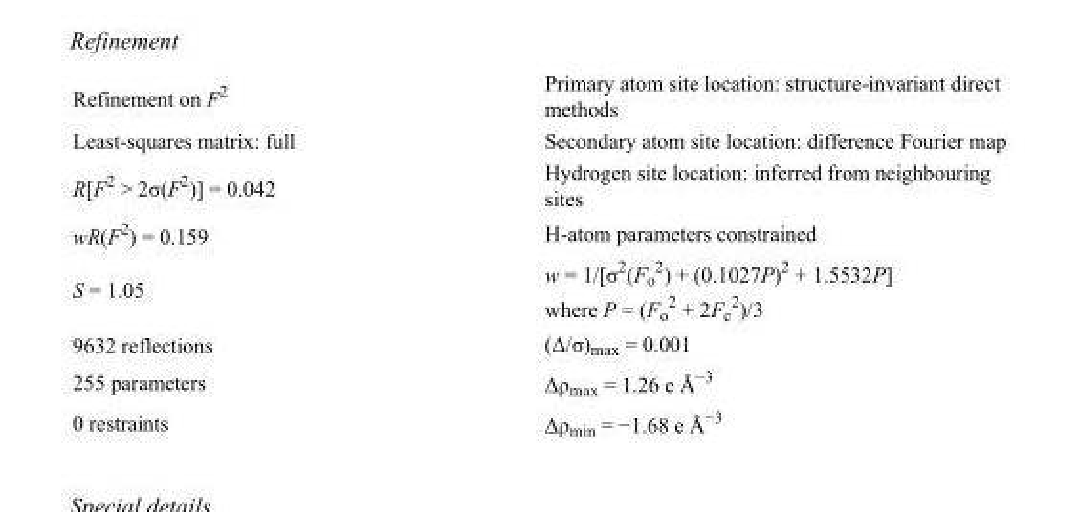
<table><tbody><tr><td>Refinement on F<sup>2</sup></td><td>Primary atom site location: structure-invariant direct methods</td></tr><tr><td>Least-squares matrix: full</td><td>Secondary atom site location: difference Fourier map</td></tr><tr><td>R[F<sup>2</sup> &gt; 2σ(F<sup>2</sup>)] = 0.042</td><td>Hydrogen site location: inferred from neighbouring sites</td></tr><tr><td>wR(F<sup>2</sup>) = 0.159</td><td>H-atom parameters constrained</td></tr><tr><td>S = 1.05</td><td>w = 1/[σ<sup>2</sup>(F<sub>o</sub> <sup>2</sup>) + (0.1027P)<sup>2</sup> + 1.5532P] where P = (F<sub>o</sub> <sup>2</sup> + 2F<sub>c</sub> <sup>2</sup>)/3</td></tr><tr><td>9632 reflections</td><td>(Δ/σ)<sub>max</sub> = 0.001</td></tr><tr><td>255 parameters</td><td>Δρ<sub>max</sub> = 1.26 e Å<sup>−3</sup></td></tr><tr><td>0 restraints</td><td>Δρ<sub>min</sub> = −1.68 e Å<sup>−3</sup></td></tr></tbody></table>